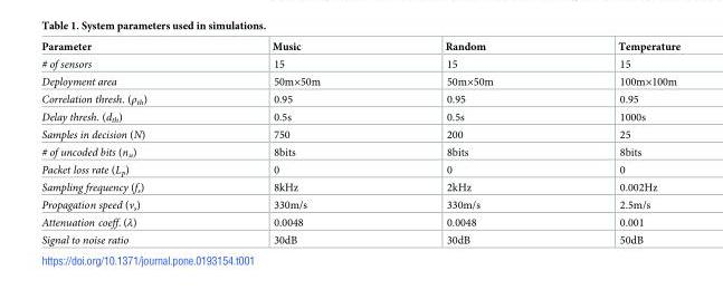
<table><thead><tr><td>Parameter</td><td>Music</td><td>Random</td><td>Temperature</td></tr></thead><tbody><tr><td># of sensors</td><td>15</td><td>15</td><td>15</td></tr><tr><td>Deployment area</td><td>50m×50m</td><td>50m×50m</td><td>100m×100m</td></tr><tr><td>Correlation thresh. (ρ<sub>th</sub>)</td><td>0.95</td><td>0.95</td><td>0.95</td></tr><tr><td>Delay thresh. (d<sub>th</sub>)</td><td>0.5s</td><td>0.5s</td><td>1000s</td></tr><tr><td>Samples in decision (N)</td><td>750</td><td>200</td><td>25</td></tr><tr><td># of uncoded bits (n<sub>u</sub>)</td><td>8bits</td><td>8bits</td><td>8bits</td></tr><tr><td>Packet loss rate (L<sub>p</sub>)</td><td>0</td><td>0</td><td>0</td></tr><tr><td>Sampling frequency (f<sub>s</sub>)</td><td>8kHz</td><td>2kHz</td><td>0.002Hz</td></tr><tr><td>Propagation speed (v<sub>s</sub>)</td><td>330m/s</td><td>330m/s</td><td>2.5m/s</td></tr><tr><td>Attenuation coeff. (λ)</td><td>0.0048</td><td>0.0048</td><td>0.001</td></tr><tr><td>Signal to noise ratio</td><td>30dB</td><td>30dB</td><td>50dB</td></tr></tbody></table>